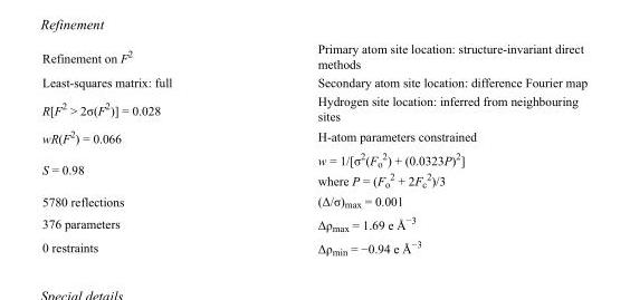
<table><tbody><tr><td>Refinement on F<sup>2</sup></td><td>Primary atom site location: structure-invariant direct methods</td></tr><tr><td>Least-squares matrix: full</td><td>Secondary atom site location: difference Fourier map</td></tr><tr><td>R[F<sup>2</sup> &gt; 2σ(F<sup>2</sup>)] = 0.028</td><td>Hydrogen site location: inferred from neighbouring sites</td></tr><tr><td>wR(F<sup>2</sup>) = 0.066</td><td>H-atom parameters constrained</td></tr><tr><td>S = 0.98</td><td>w = 1/[σ<sup>2</sup>(F<sub>o</sub> <sup>2</sup>) + (0.0323P)<sup>2</sup>] where P = (F<sub>o</sub> <sup>2</sup> + 2F<sub>c</sub> <sup>2</sup>)/3</td></tr><tr><td>5780 reflections</td><td>(Δ/σ)<sub>max</sub> = 0.001</td></tr><tr><td>376 parameters</td><td>Δρ<sub>max</sub> = 1.69 e Å<sup>−3</sup></td></tr><tr><td>0 restraints</td><td>Δρ<sub>min</sub> = −0.94 e Å<sup>−3</sup></td></tr></tbody></table>